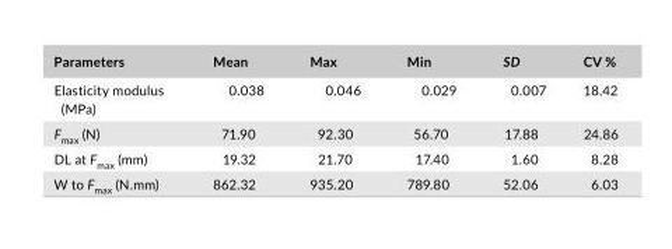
<table><thead><tr><td>Parameters</td><td>Mean</td><td>Max</td><td>Min</td><td>SD</td><td>CV %</td></tr></thead><tbody><tr><td>Elasticity modulus (MPa)</td><td>0.038</td><td>0.046</td><td>0.029</td><td>0.007</td><td>18.42</td></tr><tr><td>F<sub>max</sub> (N)</td><td>71.90</td><td>92.30</td><td>56.70</td><td>17.88</td><td>24.86</td></tr><tr><td>DL at F<sub>max</sub> (mm)</td><td>19.32</td><td>21.70</td><td>17.40</td><td>1.60</td><td>8.28</td></tr><tr><td>W to F<sub>max</sub> (N.mm)</td><td>862.32</td><td>935.20</td><td>789.80</td><td>52.06</td><td>6.03</td></tr></tbody></table>